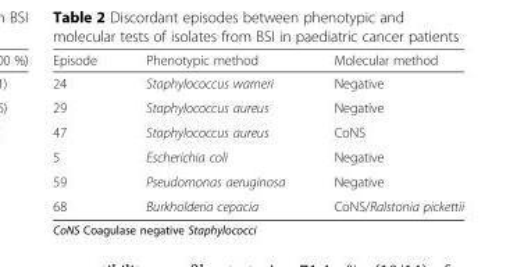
<table><thead><tr><td>Episode</td><td>Phenotypic method</td><td>Molecular method</td></tr></thead><tbody><tr><td>24</td><td>Staphylococcus warneri</td><td>Negative</td></tr><tr><td>29</td><td>Staphylococcus aureus</td><td>Negative</td></tr><tr><td>47</td><td>Staphylococcus aureus</td><td>CoNS</td></tr><tr><td>5</td><td>Escherichia coli</td><td>Negative</td></tr><tr><td>59</td><td>Pseudomonas aeruginosa</td><td>Negative</td></tr><tr><td>68</td><td>Burkholderia cepacia</td><td>CoNS/Ralstonia pickettii</td></tr></tbody></table>